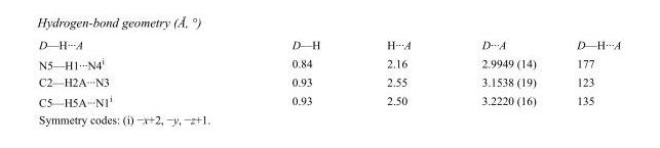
<table><tbody><tr><td>D—H···A</td><td>D—H</td><td>H···A</td><td>D···A</td><td>D—H···A</td></tr><tr><td>N5—H1···N4<sup>i</sup></td><td>0.84</td><td>2.16</td><td>2.9949 (14)</td><td>177</td></tr><tr><td>C2—H2A···N3</td><td>0.93</td><td>2.55</td><td>3.1538 (19)</td><td>123</td></tr><tr><td>C5—H5A···N1<sup>i</sup></td><td>0.93</td><td>2.50</td><td>3.2220 (16)</td><td>135</td></tr></tbody></table>